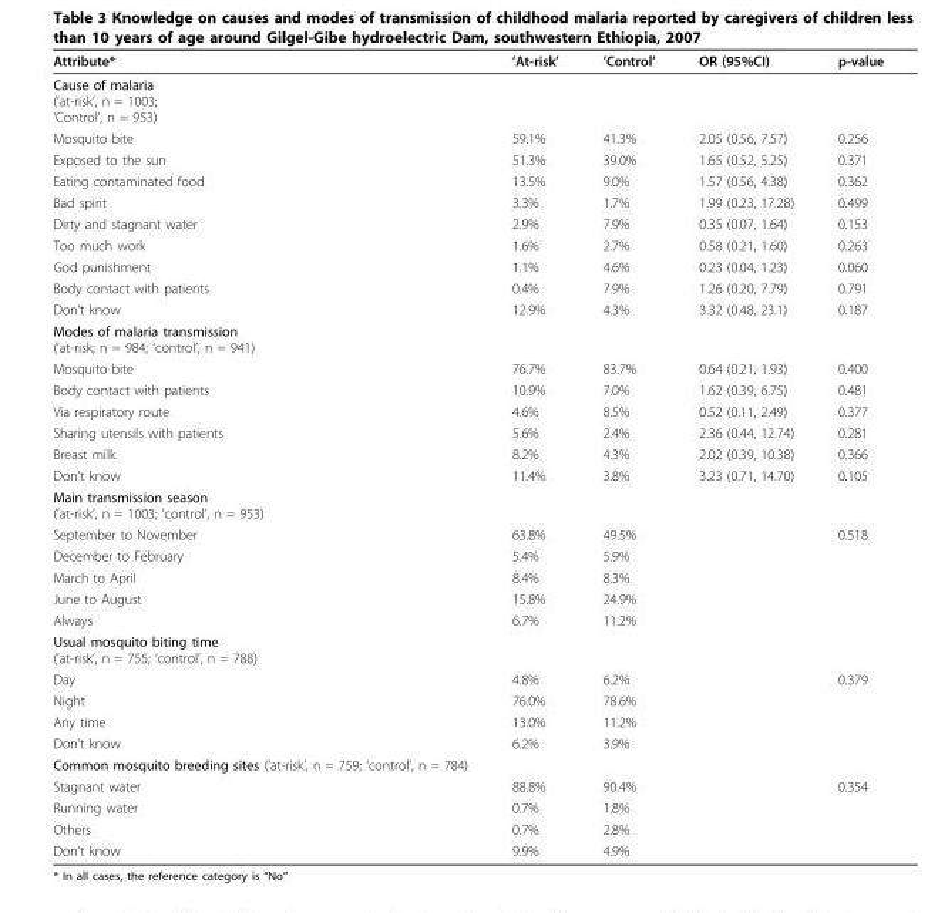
<table><thead><tr><td>Attribute*</td><td>’At-risk’</td><td>’Control’</td><td>OR (95%CI)</td><td>p-value</td></tr></thead><tbody><tr><td colspan="5">Cause of malaria (’at-risk’, n = 1003; ’Control’, n = 953)</td></tr><tr><td>Mosquito bite</td><td>59.1%</td><td>41.3%</td><td>2.05 (0.56, 7.57)</td><td>0.256</td></tr><tr><td>Exposed to the sun</td><td>51.3%</td><td>39.0%</td><td>1.65 (0.52, 5.25)</td><td>0.371</td></tr><tr><td>Eating contaminated food</td><td>13.5%</td><td>9.0%</td><td>1.57 (0.56, 4.38)</td><td>0.362</td></tr><tr><td>Bad spirit</td><td>3.3%</td><td>1.7%</td><td>1.99 (0.23, 17.28)</td><td>0.499</td></tr><tr><td>Dirty and stagnant water</td><td>2.9%</td><td>7.9%</td><td>0.35 (0.07, 1.64)</td><td>0.153</td></tr><tr><td>Too much work</td><td>1.6%</td><td>2.7%</td><td>0.58 (0.21, 1.60)</td><td>0.263</td></tr><tr><td>God punishment</td><td>1.1%</td><td>4.6%</td><td>0.23 (0.04, 1.23)</td><td>0.060</td></tr><tr><td>Body contact with patients</td><td>0.4%</td><td>7.9%</td><td>1.26 (0.20, 7.79)</td><td>0.791</td></tr><tr><td>Don’t know</td><td>12.9%</td><td>4.3%</td><td>3.32 (0.48, 23.1)</td><td>0.187</td></tr><tr><td colspan="5">Modes of malaria transmission (’at-risk; n = 984; ‘control’, n = 941)</td></tr><tr><td>Mosquito bite</td><td>76.7%</td><td>83.7%</td><td>0.64 (0.21, 1.93)</td><td>0.400</td></tr><tr><td>Body contact with patients</td><td>10.9%</td><td>7.0%</td><td>1.62 (0.39, 6.75)</td><td>0.481</td></tr><tr><td>Via respiratory route</td><td>4.6%</td><td>8.5%</td><td>0.52 (0.11, 2.49)</td><td>0.377</td></tr><tr><td>Sharing utensils with patients</td><td>5.6%</td><td>2.4%</td><td>2.36 (0.44, 12.74)</td><td>0.281</td></tr><tr><td>Breast milk</td><td>8.2%</td><td>4.3%</td><td>2.02 (0.39, 10.38)</td><td>0.366</td></tr><tr><td>Don’t know</td><td>11.4%</td><td>3.8%</td><td>3.23 (0.71, 14.70)</td><td>0.105</td></tr><tr><td colspan="5">Main transmission season (’at-risk’, n = 1003; ‘control’, n = 953)</td></tr><tr><td>September to November</td><td>63.8%</td><td>49.5%</td><td></td><td>0.518</td></tr><tr><td>December to February</td><td>5.4%</td><td>5.9%</td><td></td><td></td></tr><tr><td>March to April</td><td>8.4%</td><td>8.3%</td><td></td><td></td></tr><tr><td>June to August</td><td>15.8%</td><td>24.9%</td><td></td><td></td></tr><tr><td>Always</td><td>6.7%</td><td>11.2%</td><td></td><td></td></tr><tr><td colspan="5">Usual mosquito biting time (’at-risk’, n = 755; ‘control’, n = 788)</td></tr><tr><td>Day</td><td>4.8%</td><td>6.2%</td><td></td><td>0.379</td></tr><tr><td>Night</td><td>76.0%</td><td>78.6%</td><td></td><td></td></tr><tr><td>Any time</td><td>13.0%</td><td>11.2%</td><td></td><td></td></tr><tr><td>Don’t know</td><td>6.2%</td><td>3.9%</td><td></td><td></td></tr><tr><td colspan="5">Common mosquito breeding sites (’at-risk’, n = 759; ‘control’, n = 784)</td></tr><tr><td>Stagnant water</td><td>88.8%</td><td>90.4%</td><td></td><td>0.354</td></tr><tr><td>Running water</td><td>0.7%</td><td>1.8%</td><td></td><td></td></tr><tr><td>Others</td><td>0.7%</td><td>2.8%</td><td></td><td></td></tr><tr><td>Don’t know</td><td>9.9%</td><td>4.9%</td><td></td><td></td></tr></tbody></table>